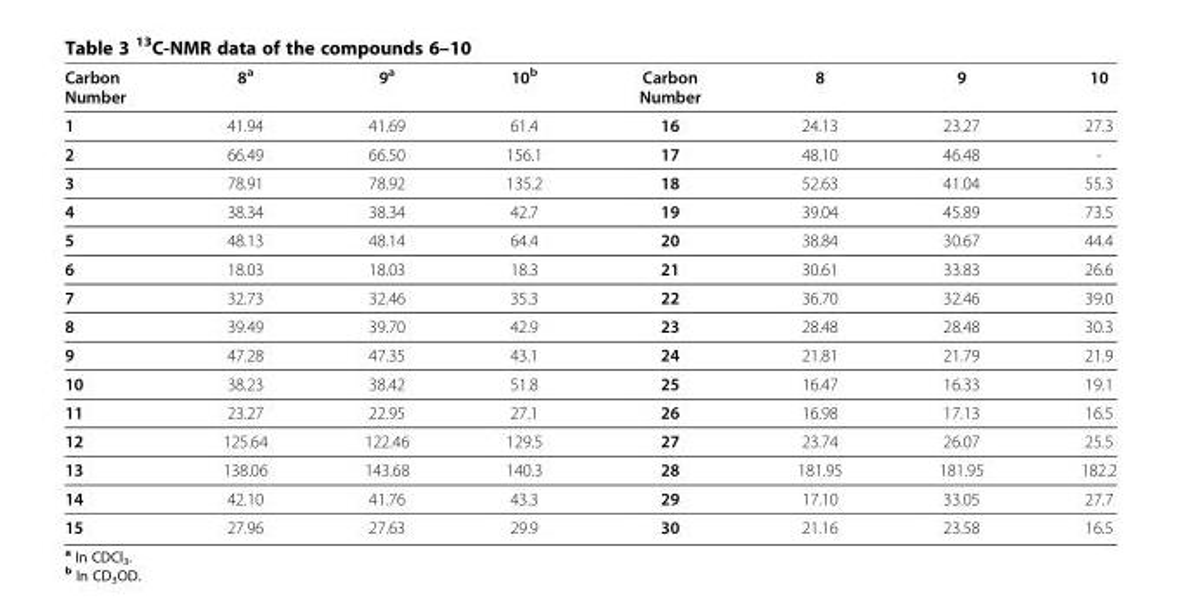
<table><thead><tr><td>Carbon Number</td><td>8<sup>a</sup></td><td>9<sup>a</sup></td><td>10<sup>b</sup></td><td>Carbon Number</td><td>8</td><td>9</td><td>10</td></tr></thead><tbody><tr><td>1</td><td>41.94</td><td>41.69</td><td>61.4</td><td>16</td><td>24.13</td><td>23.27</td><td>27.3</td></tr><tr><td>2</td><td>66.49</td><td>66.50</td><td>156.1</td><td>17</td><td>48.10</td><td>46.48</td><td>-</td></tr><tr><td>3</td><td>78.91</td><td>78.92</td><td>135.2</td><td>18</td><td>52.63</td><td>41.04</td><td>55.3</td></tr><tr><td>4</td><td>38.34</td><td>38.34</td><td>42.7</td><td>19</td><td>39.04</td><td>45.89</td><td>73.5</td></tr><tr><td>5</td><td>48.13</td><td>48.14</td><td>64.4</td><td>20</td><td>38.84</td><td>30.67</td><td>44.4</td></tr><tr><td>6</td><td>18.03</td><td>18.03</td><td>18.3</td><td>21</td><td>30.61</td><td>33.83</td><td>26.6</td></tr><tr><td>7</td><td>32.73</td><td>32.46</td><td>35.3</td><td>22</td><td>36.70</td><td>32.46</td><td>39.0</td></tr><tr><td>8</td><td>39.49</td><td>39.70</td><td>42.9</td><td>23</td><td>28.48</td><td>28.48</td><td>30.3</td></tr><tr><td>9</td><td>47.28</td><td>47.35</td><td>43.1</td><td>24</td><td>21.81</td><td>21.79</td><td>21.9</td></tr><tr><td>10</td><td>38.23</td><td>38.42</td><td>51.8</td><td>25</td><td>16.47</td><td>16.33</td><td>19.1</td></tr><tr><td>11</td><td>23.27</td><td>22.95</td><td>27.1</td><td>26</td><td>16.98</td><td>17.13</td><td>16.5</td></tr><tr><td>12</td><td>125.64</td><td>122.46</td><td>129.5</td><td>27</td><td>23.74</td><td>26.07</td><td>25.5</td></tr><tr><td>13</td><td>138.06</td><td>143.68</td><td>140.3</td><td>28</td><td>181.95</td><td>181.95</td><td>182.2</td></tr><tr><td>14</td><td>42.10</td><td>41.76</td><td>43.3</td><td>29</td><td>17.10</td><td>33.05</td><td>27.7</td></tr><tr><td>15</td><td>27.96</td><td>27.63</td><td>29.9</td><td>30</td><td>21.16</td><td>23.58</td><td>16.5</td></tr></tbody></table>